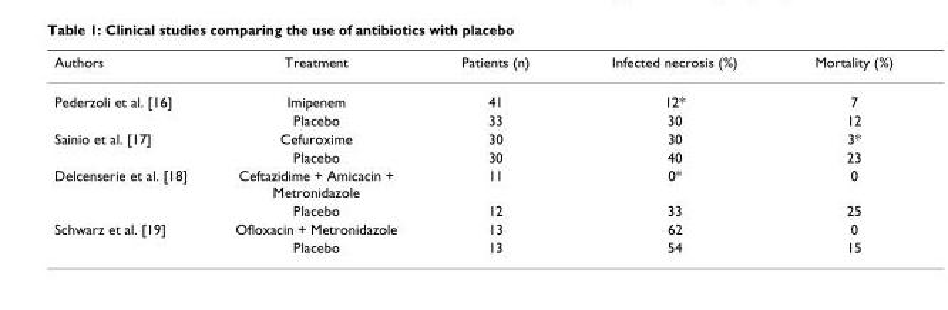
<table><thead><tr><td>Authors</td><td>Treatment</td><td>Patients (n)</td><td>Infected necrosis (%)</td><td>Mortality (%)</td></tr></thead><tbody><tr><td rowspan="2">Pederzoli et al. [16]</td><td>Imipenem</td><td>41</td><td>12*</td><td>7</td></tr><tr><td>Placebo</td><td>33</td><td>30</td><td>12</td></tr><tr><td rowspan="2">Sainio et al. [17]</td><td>Cefuroxime</td><td>30</td><td>30</td><td>3*</td></tr><tr><td>Placebo</td><td>30</td><td>40</td><td>23</td></tr><tr><td rowspan="2">Delcenserie et al. [18]</td><td>Ceftazidime + Amicacin + Metronidazole</td><td>11</td><td>0*</td><td>0</td></tr><tr><td>Placebo</td><td>12</td><td>33</td><td>25</td></tr><tr><td rowspan="2">Schwarz et al. [19]</td><td>Ofloxacin + Metronidazole</td><td>13</td><td>62</td><td>0</td></tr><tr><td>Placebo</td><td>13</td><td>54</td><td>15</td></tr></tbody></table>